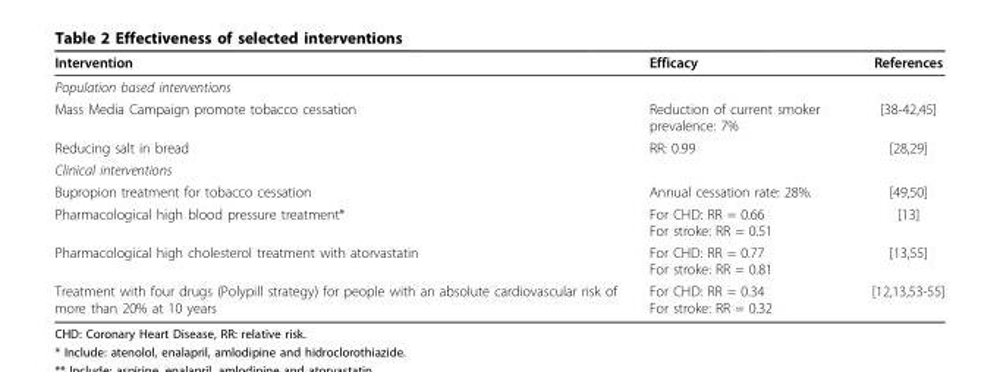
<table><thead><tr><td>Intervention</td><td>Efficacy</td><td>References</td></tr></thead><tbody><tr><td colspan="3">Population based interventions</td></tr><tr><td>Mass Media Campaign promote tobacco cessation</td><td>Reduction of current smoker prevalence: 7%</td><td>[38-42,45]</td></tr><tr><td>Reducing salt in bread</td><td>RR: 0.99</td><td>[28,29]</td></tr><tr><td colspan="3">Clinical interventions</td></tr><tr><td>Bupropion treatment for tobacco cessation</td><td>Annual cessation rate: 28%.</td><td>[49,50]</td></tr><tr><td>Pharmacological high blood pressure treatment*</td><td>For CHD: RR = 0.66 For stroke: RR = 0.51</td><td>[13]</td></tr><tr><td>Pharmacological high cholesterol treatment with atorvastatin</td><td>For CHD: RR = 0.77 For stroke: RR = 0.81</td><td>[13,55]</td></tr><tr><td>Treatment with four drugs (Polypill strategy) for people with an absolute cardiovascular risk of more than 20% at 10 years</td><td>For CHD: RR = 0.34 For stroke: RR = 0.32</td><td>[12,13,53-55]</td></tr></tbody></table>